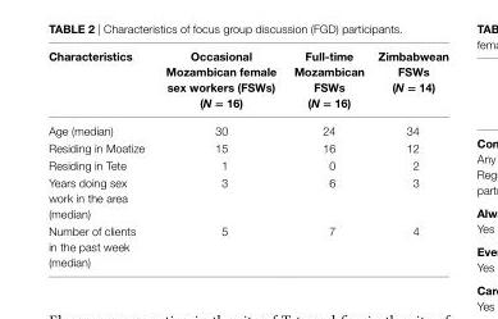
<table><thead><tr><td>characteristics</td><td>Occasional Mozambican female sex workers (FsWs) (N = 16)</td><td>Full-time Mozambican FsWs (N = 16)</td><td>Zimbabwean FsWs (N = 14)</td></tr></thead><tbody><tr><td>Age (median)</td><td>30</td><td>24</td><td>34</td></tr><tr><td>Residing in Moatize</td><td>15</td><td>16</td><td>12</td></tr><tr><td>Residing in Tete</td><td>1</td><td>0</td><td>2</td></tr><tr><td>Years doing sex work in the area (median)</td><td>3</td><td>6</td><td>3</td></tr><tr><td>Number of clients in the past week (median)</td><td>5</td><td>7</td><td>4</td></tr></tbody></table>